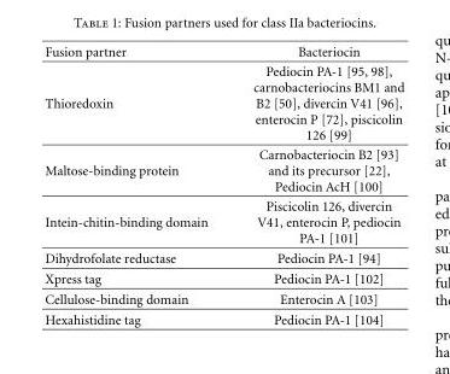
<table><thead><tr><td>Fusion partner</td><td>Bacteriocin</td></tr></thead><tbody><tr><td>Thioredoxin</td><td>Pediocin PA-1 [95, 98], carnobacteriocins BM1 and B2 [50], divercin V41 [96], enterocin P [72], piscicolin 126 [99]</td></tr><tr><td>Maltose-binding protein</td><td>Carnobacteriocin B2 [93] and its precursor [22], Pediocin AcH [100]</td></tr><tr><td>Intein-chitin-binding domain</td><td>Piscicolin 126, divercin V41, enterocin P, pediocin PA-1 [101]</td></tr><tr><td>Dihydrofolate reductase</td><td>Pediocin PA-1 [94]</td></tr><tr><td>Xpress tag</td><td>Pediocin PA-1 [102]</td></tr><tr><td>Cellulose-binding domain</td><td>Enterocin A [103]</td></tr><tr><td>Hexahistidine tag</td><td>Pediocin PA-1 [104]</td></tr></tbody></table>